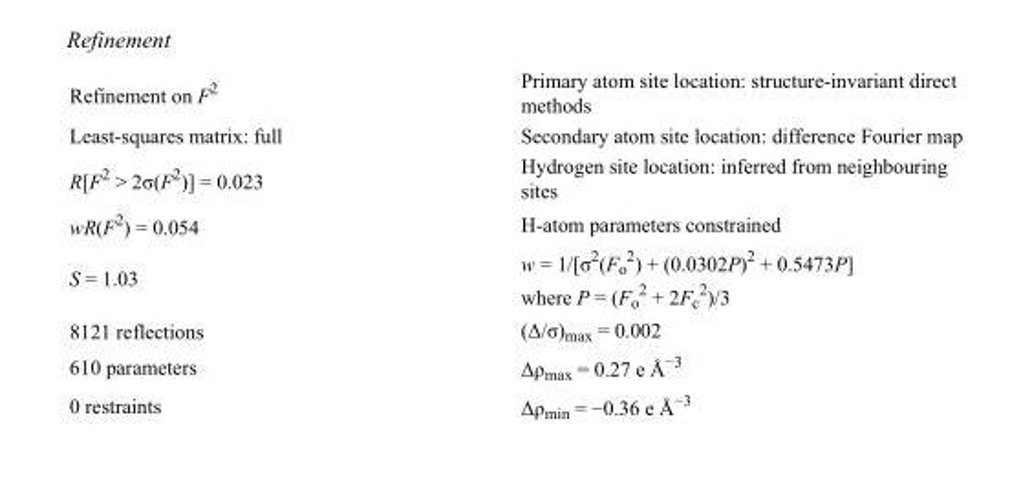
<table><tbody><tr><td>Refinement on F<sup>2</sup></td><td>Primary atom site location: structure-invariant direct methods</td></tr><tr><td>Least-squares matrix: full</td><td>Secondary atom site location: difference Fourier map</td></tr><tr><td>R[F<sup>2</sup> &gt; 2σ(F<sup>2</sup>)] = 0.023</td><td>Hydrogen site location: inferred from neighbouring sites</td></tr><tr><td>wR(F<sup>2</sup>) = 0.054</td><td>H-atom parameters constrained</td></tr><tr><td>S = 1.03</td><td>w = 1/[σ<sup>2</sup>(F<sub>o</sub> <sup>2</sup>) + (0.0302P)<sup>2</sup> + 0.5473P] where P = (F<sub>o</sub> <sup>2</sup> + 2F<sub>c</sub> <sup>2</sup>)/3</td></tr><tr><td>8121 reflections</td><td>(Δ/σ)<sub>max</sub> = 0.002</td></tr><tr><td>610 parameters</td><td>Δρ<sub>max</sub> = 0.27 e Å<sup>−3</sup></td></tr><tr><td>0 restraints</td><td>Δρ<sub>min</sub> = −0.36 e Å<sup>−3</sup></td></tr></tbody></table>